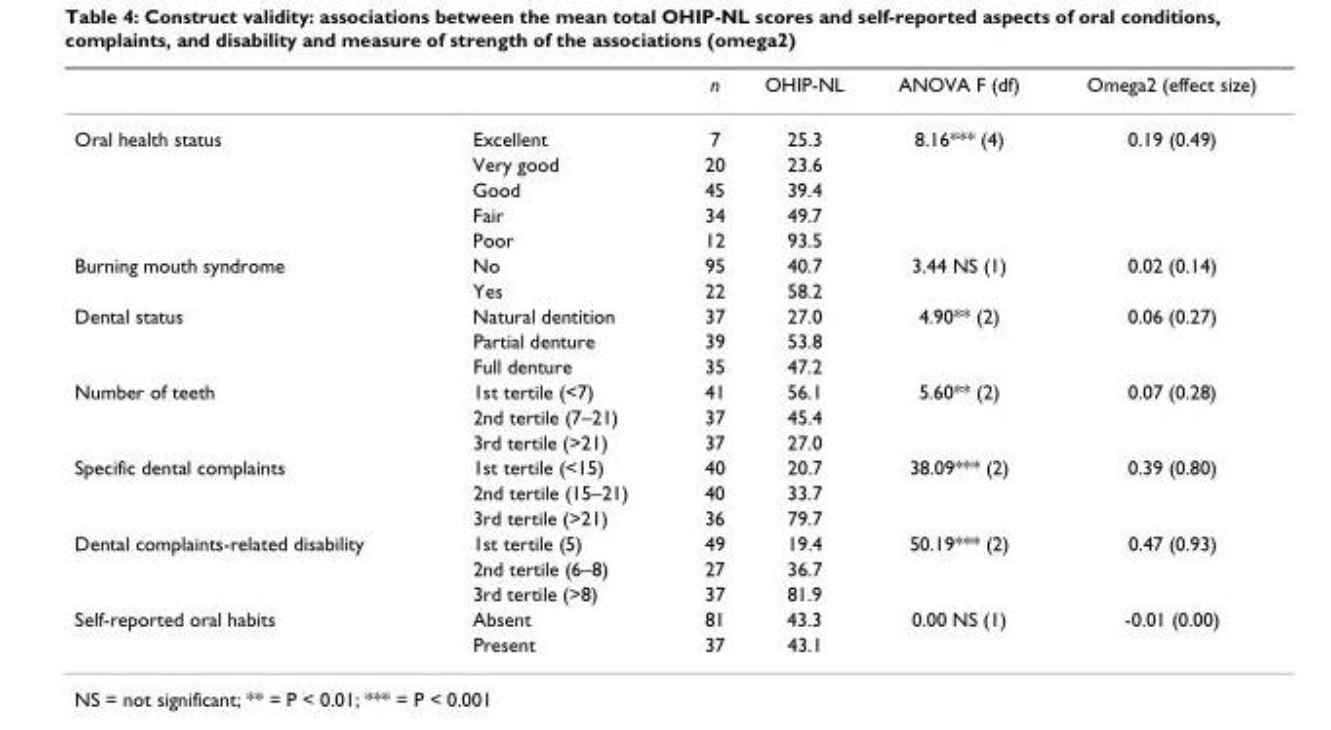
<table><thead><tr><td></td><td></td><td>n</td><td>OHIP-NL</td><td>ANOVA F (df)</td><td>Omega2 (effect size)</td></tr></thead><tbody><tr><td rowspan="5">Oral health status</td><td>Excellent</td><td>7</td><td>25.3</td><td>8.16*** (4)</td><td>0.19 (0.49)</td></tr><tr><td>Very good</td><td>20</td><td>23.6</td><td></td><td></td></tr><tr><td>Good</td><td>45</td><td>39.4</td><td></td><td></td></tr><tr><td>Fair</td><td>34</td><td>49.7</td><td></td><td></td></tr><tr><td>Poor</td><td>12</td><td>93.5</td><td></td><td></td></tr><tr><td rowspan="2">Burning mouth syndrome</td><td>No</td><td>95</td><td>40.7</td><td>3.44 NS (1)</td><td>0.02 (0.14)</td></tr><tr><td>Yes</td><td>22</td><td>58.2</td><td></td><td></td></tr><tr><td rowspan="3">Dental status</td><td>Natural dentition</td><td>37</td><td>27.0</td><td>4.90** (2)</td><td>0.06 (0.27)</td></tr><tr><td>Partial denture</td><td>39</td><td>53.8</td><td></td><td></td></tr><tr><td>Full denture</td><td>35</td><td>47.2</td><td></td><td></td></tr><tr><td rowspan="3">Number of teeth</td><td>1st tertile (&lt;7)</td><td>41</td><td>56.1</td><td>5.60** (2)</td><td>0.07 (0.28)</td></tr><tr><td>2nd tertile (7–21)</td><td>37</td><td>45.4</td><td></td><td></td></tr><tr><td>3rd tertile (&gt;21)</td><td>37</td><td>27.0</td><td></td><td></td></tr><tr><td rowspan="3">Specific dental complaints</td><td>1st tertile (&lt;15)</td><td>40</td><td>20.7</td><td>38.09*** (2)</td><td>0.39 (0.80)</td></tr><tr><td>2nd tertile (15–21)</td><td>40</td><td>33.7</td><td></td><td></td></tr><tr><td>3rd tertile (&gt;21)</td><td>36</td><td>79.7</td><td></td><td></td></tr><tr><td rowspan="3">Dental complaints-related disability</td><td>1st tertile (5)</td><td>49</td><td>19.4</td><td>50.19*** (2)</td><td>0.47 (0.93)</td></tr><tr><td>2nd tertile (6–8)</td><td>27</td><td>36.7</td><td></td><td></td></tr><tr><td>3rd tertile (&gt;8)</td><td>37</td><td>81.9</td><td></td><td></td></tr><tr><td rowspan="2">Self-reported oral habits</td><td>Absent</td><td>81</td><td>43.3</td><td>0.00 NS (1)</td><td>-0.01 (0.00)</td></tr><tr><td>Present</td><td>37</td><td>43.1</td><td></td><td></td></tr></tbody></table>